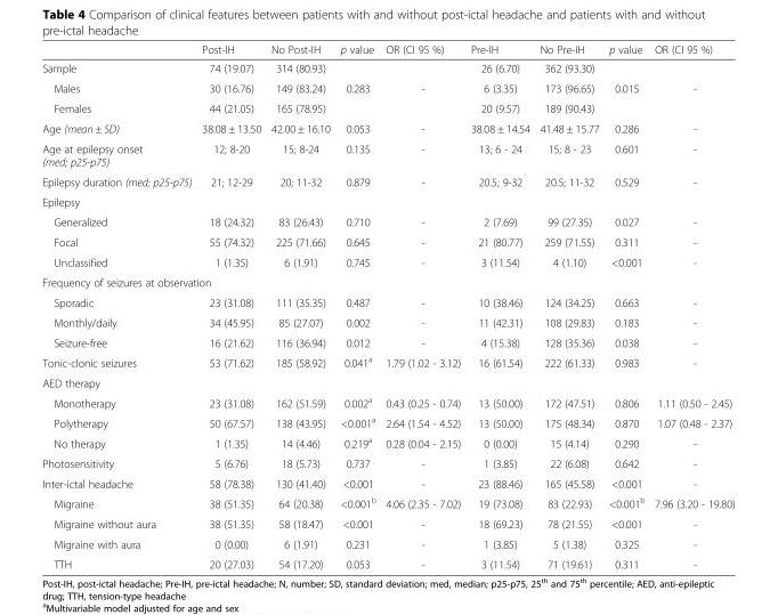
<table><thead><tr><td></td><td>Post-IH</td><td>No Post-IH</td><td>p value</td><td>OR (CI 95 %)</td><td>Pre-IH</td><td>No Pre-IH</td><td>p value</td><td>OR (CI 95 %)</td></tr></thead><tbody><tr><td>Sample</td><td>74 (19.07)</td><td>314 (80.93)</td><td></td><td></td><td>26 (6.70)</td><td>362 (93.30)</td><td></td><td></td></tr><tr><td>Males</td><td>30 (16.76)</td><td>149 (83.24)</td><td rowspan="2">0.283</td><td rowspan="2">-</td><td>6 (3.35)</td><td>173 (96.65)</td><td rowspan="2">0.015</td><td rowspan="2">-</td></tr><tr><td>Females</td><td>44 (21.05)</td><td>165 (78.95)</td><td>20 (9.57)</td><td>189 (90.43)</td></tr><tr><td>Age (mean ± SD)</td><td>38.08 ± 13.50</td><td>42.00 ± 16.10</td><td>0.053</td><td>-</td><td>38.08 ± 14.54</td><td>41.48 ± 15.77</td><td>0.286</td><td>-</td></tr><tr><td>Age at epilepsy onset (med; p25-p75)</td><td>12; 8-20</td><td>15; 8-24</td><td>0.135</td><td>-</td><td>13; 6 - 24</td><td>15; 8 - 23</td><td>0.601</td><td>-</td></tr><tr><td>Epilepsy duration (med; p25-p75)</td><td>21; 12-29</td><td>20; 11-32</td><td>0.879</td><td>-</td><td>20.5; 9-32</td><td>20.5; 11-32</td><td>0.529</td><td>-</td></tr><tr><td colspan="9">Epilepsy</td></tr><tr><td>Generalized</td><td>18 (24.32)</td><td>83 (26.43)</td><td>0.710</td><td>-</td><td>2 (7.69)</td><td>99 (27.35)</td><td>0.027</td><td>-</td></tr><tr><td>Focal</td><td>55 (74.32)</td><td>225 (71.66)</td><td>0.645</td><td>-</td><td>21 (80.77)</td><td>259 (71.55)</td><td>0.311</td><td>-</td></tr><tr><td>Unclassified</td><td>1 (1.35)</td><td>6 (1.91)</td><td>0.745</td><td>-</td><td>3 (11.54)</td><td>4 (1.10)</td><td>&lt;0.001</td><td>-</td></tr><tr><td colspan="9">Frequency of seizures at observation</td></tr><tr><td>Sporadic</td><td>23 (31.08)</td><td>111 (35.35)</td><td>0.487</td><td>-</td><td>10 (38.46)</td><td>124 (34.25)</td><td>0.663</td><td>-</td></tr><tr><td>Monthly/daily</td><td>34 (45.95)</td><td>85 (27.07)</td><td>0.002</td><td>-</td><td>11 (42.31)</td><td>108 (29.83)</td><td>0.183</td><td>-</td></tr><tr><td>Seizure-free</td><td>16 (21.62)</td><td>116 (36.94)</td><td>0.012</td><td>-</td><td>4 (15.38)</td><td>128 (35.36)</td><td>0.038</td><td>-</td></tr><tr><td>Tonic-clonic seizures</td><td>53 (71.62)</td><td>185 (58.92)</td><td>0.041<sup>a</sup></td><td>1.79 (1.02 - 3.12)</td><td>16 (61.54)</td><td>222 (61.33)</td><td>0.983</td><td>-</td></tr><tr><td colspan="9">AED therapy</td></tr><tr><td>Monotherapy</td><td>23 (31.08)</td><td>162 (51.59)</td><td>0.002<sup>a</sup></td><td>0.43 (0.25 - 0.74)</td><td>13 (50.00)</td><td>172 (47.51)</td><td>0.806</td><td>1.11 (0.50 - 2.45)</td></tr><tr><td>Polytherapy</td><td>50 (67.57)</td><td>138 (43.95)</td><td>&lt;0.001<sup>a</sup></td><td>2.64 (1.54 - 4.52)</td><td>13 (50.00)</td><td>175 (48.34)</td><td>0.870</td><td>1.07 (0.48 - 2.37)</td></tr><tr><td>No therapy</td><td>1 (1.35)</td><td>14 (4.46)</td><td>0.219<sup>a</sup></td><td>0.28 (0.04 - 2.15)</td><td>0 (0.00)</td><td>15 (4.14)</td><td>0.290</td><td>-</td></tr><tr><td>Photosensitivity</td><td>5 (6.76)</td><td>18 (5.73)</td><td>0.737</td><td>-</td><td>1 (3.85)</td><td>22 (6.08)</td><td>0.642</td><td>-</td></tr><tr><td>Inter-ictal headache</td><td>58 (78.38)</td><td>130 (41.40)</td><td>&lt;0.001</td><td>-</td><td>23 (88.46)</td><td>165 (45.58)</td><td>&lt;0.001</td><td>-</td></tr><tr><td>Migraine</td><td>38 (51.35)</td><td>64 (20.38)</td><td>&lt;0.001<sup>b</sup></td><td>4.06 (2.35 - 7.02)</td><td>19 (73.08)</td><td>83 (22.93)</td><td>&lt;0.001<sup>b</sup></td><td>7.96 (3.20 - 19.80)</td></tr><tr><td>Migraine without aura</td><td>38 (51.35)</td><td>58 (18.47)</td><td>&lt;0.001</td><td>-</td><td>18 (69.23)</td><td>78 (21.55)</td><td>&lt;0.001</td><td>-</td></tr><tr><td>Migraine with aura</td><td>0 (0.00)</td><td>6 (1.91)</td><td>0.231</td><td>-</td><td>1 (3.85)</td><td>5 (1.38)</td><td>0.325</td><td>-</td></tr><tr><td>TTH</td><td>20 (27.03)</td><td>54 (17.20)</td><td>0.053</td><td>-</td><td>3 (11.54)</td><td>71 (19.61)</td><td>0.311</td><td>-</td></tr></tbody></table>